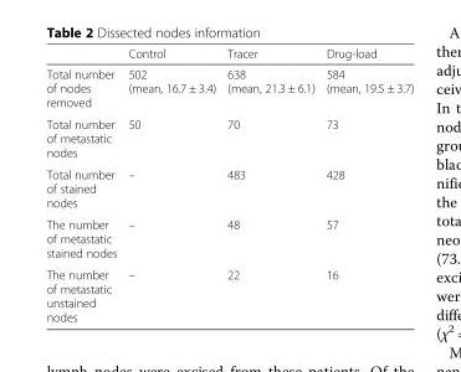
<table><thead><tr><td></td><td>Control</td><td>Tracer</td><td>Drug-load</td></tr></thead><tbody><tr><td>Total number of nodes removed</td><td>502 (mean, 16.7 ± 3.4)</td><td>638 (mean, 21.3 ± 6.1)</td><td>584 (mean, 19.5 ± 3.7)</td></tr><tr><td>Total number of metastatic nodes</td><td>50</td><td>70</td><td>73</td></tr><tr><td>Total number of stained nodes</td><td>–</td><td>483</td><td>428</td></tr><tr><td>The number of metastatic stained nodes</td><td>–</td><td>48</td><td>57</td></tr><tr><td>The number of metastatic unstained nodes</td><td>–</td><td>22</td><td>16</td></tr></tbody></table>